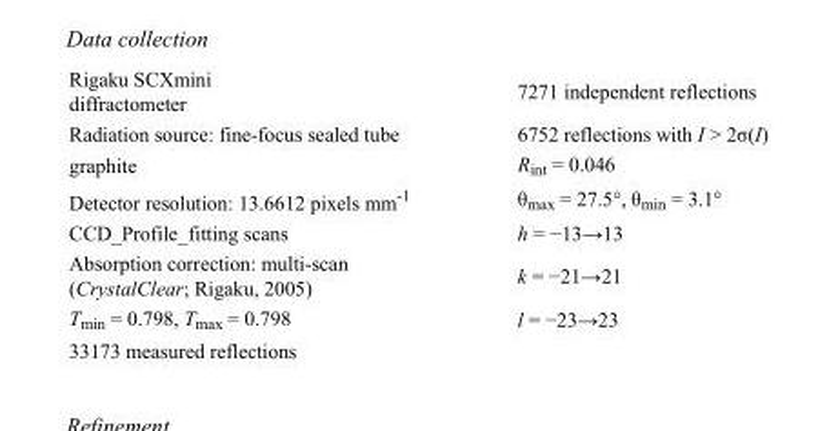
<table><tbody><tr><td>Rigaku SCXmini diffractometer</td><td>7271 independent reflections</td></tr><tr><td>Radiation source: fine-focus sealed tube</td><td>6752 reflections with I &gt; 2σ(I)</td></tr><tr><td>graphite</td><td>R<sub>int</sub> = 0.046</td></tr><tr><td>Detector resolution: 13.6612 pixels mm<sup>-1</sup></td><td>θ<sub>max</sub> = 27.5°, θ<sub>min</sub> = 3.1°</td></tr><tr><td>CCD_Profile_fitting scans</td><td>h = −13→13</td></tr><tr><td>Absorption correction: multi-scan (CrystalClear; Rigaku, 2005)</td><td>k = −21→21</td></tr><tr><td>T<sub>min</sub> = 0.798, T<sub>max</sub> = 0.798</td><td>l = −23→23</td></tr><tr><td>33173 measured reflections</td><td></td></tr></tbody></table>